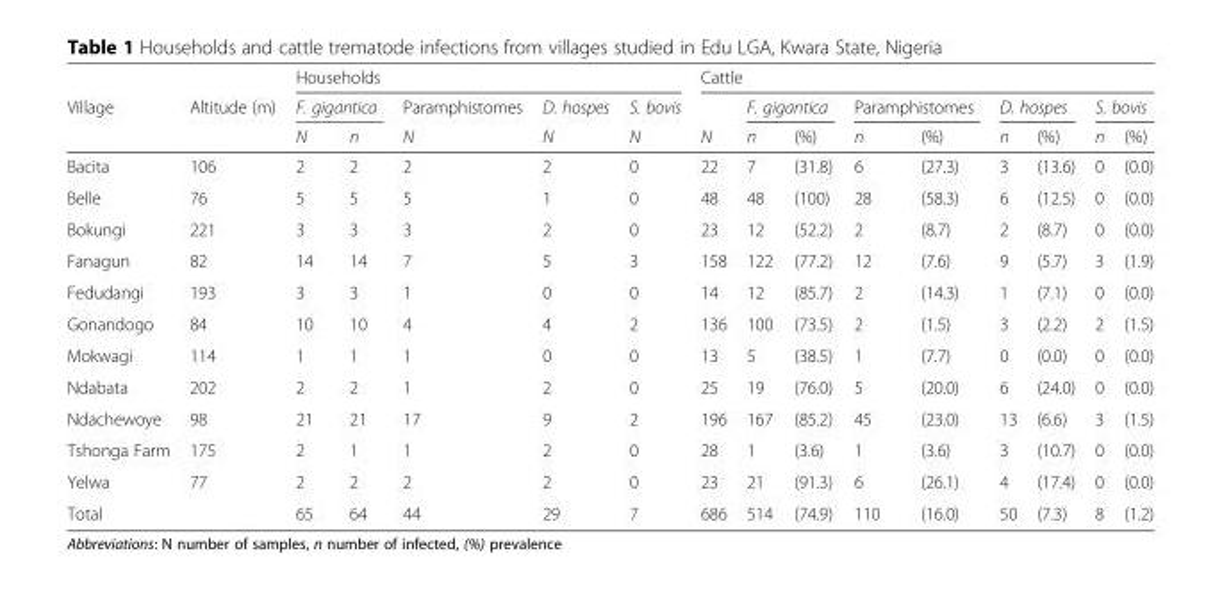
<table><thead><tr><td rowspan="3">Village</td><td rowspan="3">Altitude (m)</td><td colspan="5">Households</td><td colspan="9">Cattle</td></tr><tr><td colspan="2">F. gigantica</td><td rowspan="2">Paramphistomes N</td><td rowspan="2">D. hospes N</td><td rowspan="2">S. bovis N</td><td rowspan="2">N</td><td colspan="2">F. gigantica</td><td colspan="2">Paramphistomes</td><td colspan="2">D. hospes</td><td colspan="2">S. bovis</td></tr><tr><td>N</td><td>n</td><td>n</td><td>(%)</td><td>n</td><td>(%)</td><td>n</td><td>(%)</td><td>n</td><td>(%)</td></tr></thead><tbody><tr><td>Bacita</td><td>106</td><td>2</td><td>2</td><td>2</td><td>2</td><td>0</td><td>22</td><td>7</td><td>(31.8)</td><td>6</td><td>(27.3)</td><td>3</td><td>(13.6)</td><td>0</td><td>(0.0)</td></tr><tr><td>Belle</td><td>76</td><td>5</td><td>5</td><td>5</td><td>1</td><td>0</td><td>48</td><td>48</td><td>(100)</td><td>28</td><td>(58.3)</td><td>6</td><td>(12.5)</td><td>0</td><td>(0.0)</td></tr><tr><td>Bokungi</td><td>221</td><td>3</td><td>3</td><td>3</td><td>2</td><td>0</td><td>23</td><td>12</td><td>(52.2)</td><td>2</td><td>(8.7)</td><td>2</td><td>(8.7)</td><td>0</td><td>(0.0)</td></tr><tr><td>Fanagun</td><td>82</td><td>14</td><td>14</td><td>7</td><td>5</td><td>3</td><td>158</td><td>122</td><td>(77.2)</td><td>12</td><td>(7.6)</td><td>9</td><td>(5.7)</td><td>3</td><td>(1.9)</td></tr><tr><td>Fedudangi</td><td>193</td><td>3</td><td>3</td><td>1</td><td>0</td><td>0</td><td>14</td><td>12</td><td>(85.7)</td><td>2</td><td>(14.3)</td><td>1</td><td>(7.1)</td><td>0</td><td>(0.0)</td></tr><tr><td>Gonandogo</td><td>84</td><td>10</td><td>10</td><td>4</td><td>4</td><td>2</td><td>136</td><td>100</td><td>(73.5)</td><td>2</td><td>(1.5)</td><td>3</td><td>(2.2)</td><td>2</td><td>(1.5)</td></tr><tr><td>Mokwagi</td><td>114</td><td>1</td><td>1</td><td>1</td><td>0</td><td>0</td><td>13</td><td>5</td><td>(38.5)</td><td>1</td><td>(7.7)</td><td>0</td><td>(0.0)</td><td>0</td><td>(0.0)</td></tr><tr><td>Ndabata</td><td>202</td><td>2</td><td>2</td><td>1</td><td>2</td><td>0</td><td>25</td><td>19</td><td>(76.0)</td><td>5</td><td>(20.0)</td><td>6</td><td>(24.0)</td><td>0</td><td>(0.0)</td></tr><tr><td>Ndachewoye</td><td>98</td><td>21</td><td>21</td><td>17</td><td>9</td><td>2</td><td>196</td><td>167</td><td>(85.2)</td><td>45</td><td>(23.0)</td><td>13</td><td>(6.6)</td><td>3</td><td>(1.5)</td></tr><tr><td>Tshonga Farm</td><td>175</td><td>2</td><td>1</td><td>1</td><td>2</td><td>0</td><td>28</td><td>1</td><td>(3.6)</td><td>1</td><td>(3.6)</td><td>3</td><td>(10.7)</td><td>0</td><td>(0.0)</td></tr><tr><td>Yelwa</td><td>77</td><td>2</td><td>2</td><td>2</td><td>2</td><td>0</td><td>23</td><td>21</td><td>(91.3)</td><td>6</td><td>(26.1)</td><td>4</td><td>(17.4)</td><td>0</td><td>(0.0)</td></tr><tr><td>Total</td><td></td><td>65</td><td>64</td><td>44</td><td>29</td><td>7</td><td>686</td><td>514</td><td>(74.9)</td><td>110</td><td>(16.0)</td><td>50</td><td>(7.3)</td><td>8</td><td>(1.2)</td></tr></tbody></table>